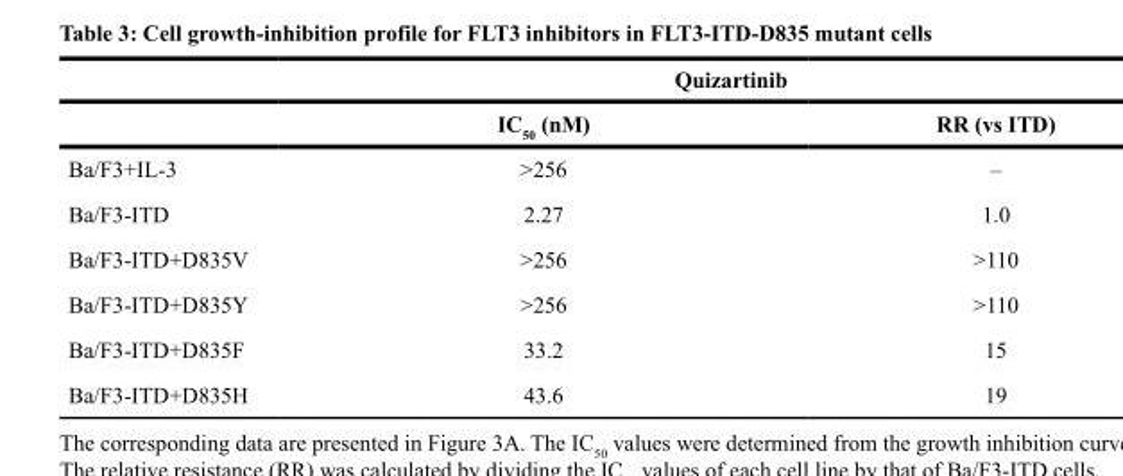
<table><thead><tr><td rowspan="2"></td><td colspan="2">Quizartinib</td></tr><tr><td>IC<sub>50</sub> (nM)</td><td>RR (vs ITD)</td></tr></thead><tbody><tr><td>Ba/F3+IL-3</td><td>&gt;256</td><td>–</td></tr><tr><td>Ba/F3-ITD</td><td>2.27</td><td>1.0</td></tr><tr><td>Ba/F3-ITD+D835V</td><td>&gt;256</td><td>&gt;110</td></tr><tr><td>Ba/F3-ITD+D835Y</td><td>&gt;256</td><td>&gt;110</td></tr><tr><td>Ba/F3-ITD+D835F</td><td>33.2</td><td>15</td></tr><tr><td>Ba/F3-ITD+D835H</td><td>43.6</td><td>19</td></tr></tbody></table>